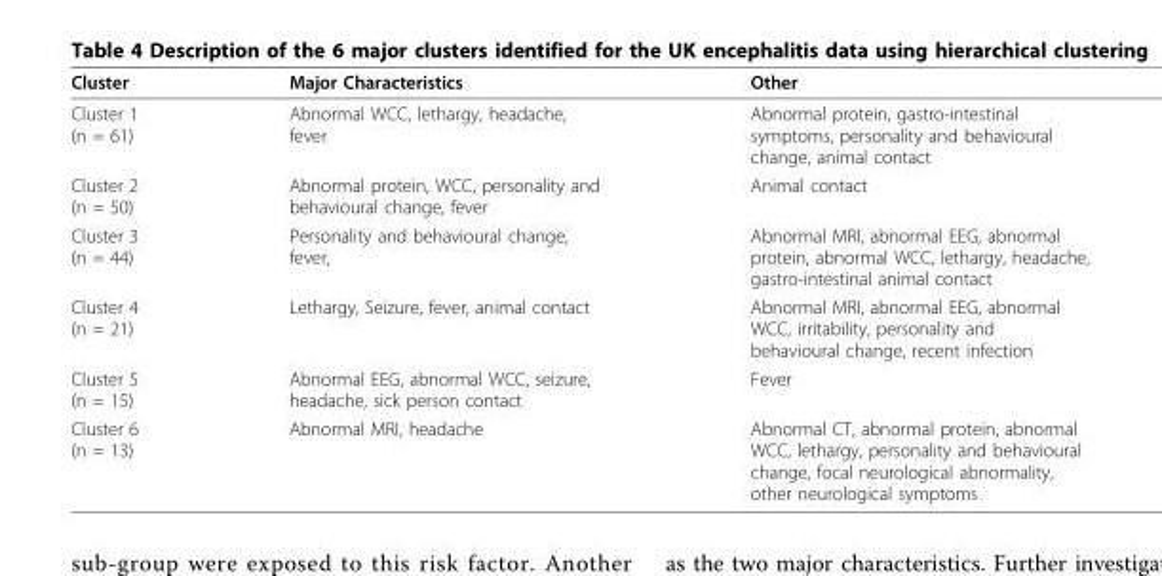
<table><thead><tr><td>Cluster</td><td>Major Characteristics</td><td>Other</td></tr></thead><tbody><tr><td>Cluster 1 (n = 61)</td><td>Abnormal WCC, lethargy, headache, fever</td><td>Abnormal protein, gastro-intestinal symptoms, personality and behavioural change, animal contact</td></tr><tr><td>Cluster 2 (n = 50)</td><td>Abnormal protein, WCC, personality and behavioural change, fever</td><td>Animal contact</td></tr><tr><td>Cluster 3 (n = 44)</td><td>Personality and behavioural change, fever,</td><td>Abnormal MRI, abnormal EEG, abnormal protein, abnormal WCC, lethargy, headache, gastro-intestinal animal contact</td></tr><tr><td>Cluster 4 (n = 21)</td><td>Lethargy, Seizure, fever, animal contact</td><td>Abnormal MRI, abnormal EEG, abnormal WCC, irritability, personality and behavioural change, recent infection</td></tr><tr><td>Cluster 5 (n = 15)</td><td>Abnormal EEG, abnormal WCC, seizure, headache, sick person contact</td><td>Fever</td></tr><tr><td>Cluster 6 (n = 13)</td><td>Abnormal MRI, headache</td><td>Abnormal CT, abnormal protein, abnormal WCC, lethargy, personality and behavioural change, focal neurological abnormality, other neurological symptoms</td></tr></tbody></table>